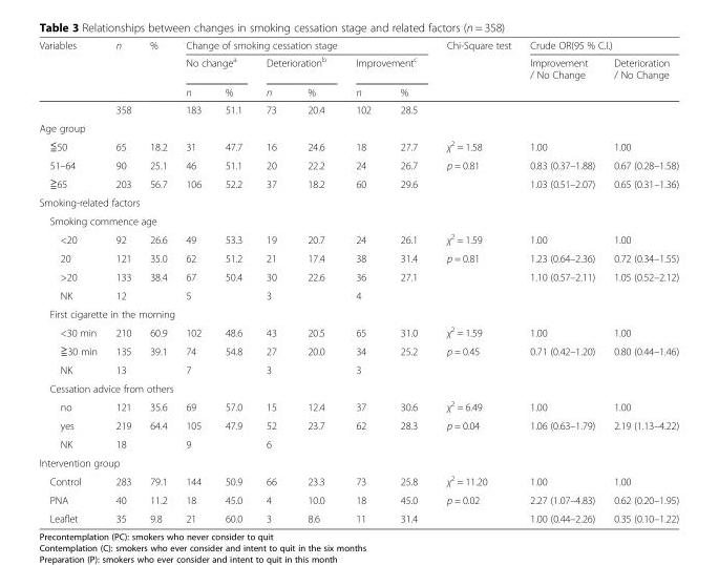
<table><thead><tr><td rowspan="3">Variables</td><td rowspan="3">n</td><td rowspan="3">%</td><td colspan="6">Change of smoking cessation stage</td><td rowspan="3">Chi-Square test</td><td colspan="2">Crude OR(95 % C.I.)</td></tr><tr><td colspan="2">No change<sup>a</sup></td><td colspan="2">Deterioration<sup>b</sup></td><td colspan="2">Improvement<sup>c</sup></td><td rowspan="2">Improvement / No Change</td><td rowspan="2">Deterioration / No Change</td></tr><tr><td>n</td><td>%</td><td>n</td><td>%</td><td>n</td><td>%</td></tr></thead><tbody><tr><td></td><td>358</td><td></td><td>183</td><td>51.1</td><td>73</td><td>20.4</td><td>102</td><td>28.5</td><td></td><td></td><td></td></tr><tr><td colspan="12">Age group</td></tr><tr><td>≦50</td><td>65</td><td>18.2</td><td>31</td><td>47.7</td><td>16</td><td>24.6</td><td>18</td><td>27.7</td><td>χ<sup>2</sup> = 1.58</td><td>1.00</td><td>1.00</td></tr><tr><td>51–64</td><td>90</td><td>25.1</td><td>46</td><td>51.1</td><td>20</td><td>22.2</td><td>24</td><td>26.7</td><td>p = 0.81</td><td>0.83 (0.37–1.88)</td><td>0.67 (0.28–1.58)</td></tr><tr><td>≧65</td><td>203</td><td>56.7</td><td>106</td><td>52.2</td><td>37</td><td>18.2</td><td>60</td><td>29.6</td><td></td><td>1.03 (0.51–2.07)</td><td>0.65 (0.31–1.36)</td></tr><tr><td colspan="12">Smoking-related factors</td></tr><tr><td colspan="12">Smoking commence age</td></tr><tr><td>&lt;20</td><td>92</td><td>26.6</td><td>49</td><td>53.3</td><td>19</td><td>20.7</td><td>24</td><td>26.1</td><td>χ<sup>2</sup> = 1.59</td><td>1.00</td><td>1.00</td></tr><tr><td>20</td><td>121</td><td>35.0</td><td>62</td><td>51.2</td><td>21</td><td>17.4</td><td>38</td><td>31.4</td><td>p = 0.81</td><td>1.23 (0.64–2.36)</td><td>0.72 (0.34–1.55)</td></tr><tr><td>&gt;20</td><td>133</td><td>38.4</td><td>67</td><td>50.4</td><td>30</td><td>22.6</td><td>36</td><td>27.1</td><td></td><td>1.10 (0.57–2.11)</td><td>1.05 (0.52–2.12)</td></tr><tr><td>NK</td><td>12</td><td></td><td>5</td><td></td><td>3</td><td></td><td>4</td><td></td><td></td><td></td><td></td></tr><tr><td colspan="12">First cigarette in the morning</td></tr><tr><td>&lt;30 min</td><td>210</td><td>60.9</td><td>102</td><td>48.6</td><td>43</td><td>20.5</td><td>65</td><td>31.0</td><td>χ<sup>2</sup> = 1.59</td><td>1.00</td><td>1.00</td></tr><tr><td>≧30 min</td><td>135</td><td>39.1</td><td>74</td><td>54.8</td><td>27</td><td>20.0</td><td>34</td><td>25.2</td><td>p = 0.45</td><td>0.71 (0.42–1.20)</td><td>0.80 (0.44–1.46)</td></tr><tr><td>NK</td><td>13</td><td></td><td>7</td><td></td><td>3</td><td></td><td>3</td><td></td><td></td><td></td><td></td></tr><tr><td colspan="12">Cessation advice from others</td></tr><tr><td>no</td><td>121</td><td>35.6</td><td>69</td><td>57.0</td><td>15</td><td>12.4</td><td>37</td><td>30.6</td><td>χ<sup>2</sup> = 6.49</td><td>1.00</td><td>1.00</td></tr><tr><td>yes</td><td>219</td><td>64.4</td><td>105</td><td>47.9</td><td>52</td><td>23.7</td><td>62</td><td>28.3</td><td>p = 0.04</td><td>1.06 (0.63–1.79)</td><td>2.19 (1.13–4.22)</td></tr><tr><td>NK</td><td>18</td><td></td><td>9</td><td></td><td>6</td><td></td><td></td><td></td><td></td><td></td><td></td></tr><tr><td colspan="12">Intervention group</td></tr><tr><td>Control</td><td>283</td><td>79.1</td><td>144</td><td>50.9</td><td>66</td><td>23.3</td><td>73</td><td>25.8</td><td>χ<sup>2</sup> = 11.20</td><td>1.00</td><td>1.00</td></tr><tr><td>PNA</td><td>40</td><td>11.2</td><td>18</td><td>45.0</td><td>4</td><td>10.0</td><td>18</td><td>45.0</td><td>p = 0.02</td><td>2.27 (1.07–4.83)</td><td>0.62 (0.20–1.95)</td></tr><tr><td>Leaflet</td><td>35</td><td>9.8</td><td>21</td><td>60.0</td><td>3</td><td>8.6</td><td>11</td><td>31.4</td><td></td><td>1.00 (0.44–2.26)</td><td>0.35 (0.10–1.22)</td></tr></tbody></table>